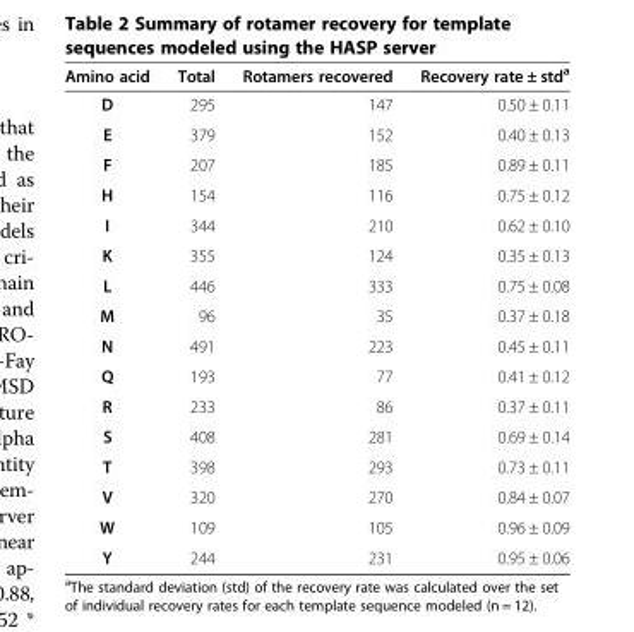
<table><thead><tr><td>Amino acid</td><td>Total</td><td>Rotamers recovered</td><td>Recovery rate ± std<sup>a</sup></td></tr></thead><tbody><tr><td>D</td><td>295</td><td>147</td><td>0.50 ± 0.11</td></tr><tr><td>E</td><td>379</td><td>152</td><td>0.40 ± 0.13</td></tr><tr><td>F</td><td>207</td><td>185</td><td>0.89 ± 0.11</td></tr><tr><td>H</td><td>154</td><td>116</td><td>0.75 ± 0.12</td></tr><tr><td>I</td><td>344</td><td>210</td><td>0.62 ± 0.10</td></tr><tr><td>K</td><td>355</td><td>124</td><td>0.35 ± 0.13</td></tr><tr><td>L</td><td>446</td><td>333</td><td>0.75 ± 0.08</td></tr><tr><td>M</td><td>96</td><td>35</td><td>0.37 ± 0.18</td></tr><tr><td>N</td><td>491</td><td>223</td><td>0.45 ± 0.11</td></tr><tr><td>Q</td><td>193</td><td>77</td><td>0.41 ± 0.12</td></tr><tr><td>R</td><td>233</td><td>86</td><td>0.37 ± 0.11</td></tr><tr><td>S</td><td>408</td><td>281</td><td>0.69 ± 0.14</td></tr><tr><td>T</td><td>398</td><td>293</td><td>0.73 ± 0.11</td></tr><tr><td>V</td><td>320</td><td>270</td><td>0.84 ± 0.07</td></tr><tr><td>W</td><td>109</td><td>105</td><td>0.96 ± 0.09</td></tr><tr><td>Y</td><td>244</td><td>231</td><td>0.95 ± 0.06</td></tr></tbody></table>